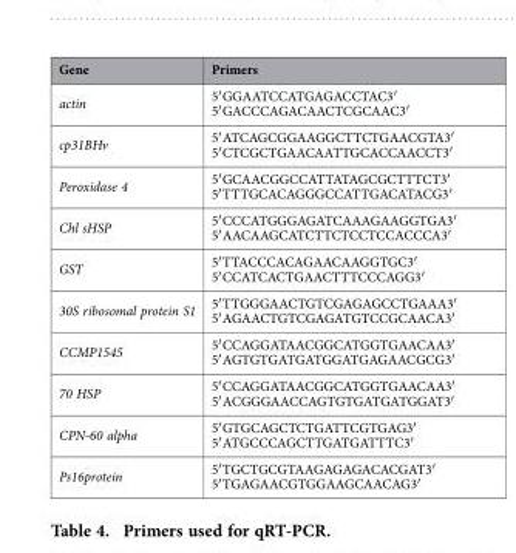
<table><thead><tr><td>Gene</td><td>Primers</td></tr></thead><tbody><tr><td>actin</td><td>5′ GGAATCCATGAGACCTAC3′ 5′ GACCCAGACAACTCGCAAC3′</td></tr><tr><td>cp31BHv</td><td>5′ ATCAGCGGAAGGCTTCTGAACGTA3′ 5′ CTCGCTGAACAATTGCACCAACCT3′</td></tr><tr><td>Peroxidase 4</td><td>5′ GCAACGGCCATTATAGCGCTTTCT3′ 5′ TTTGCACAGGGCCATTGACATACG3′</td></tr><tr><td>Chl sHSP</td><td>5′ CCCATGGGAGATCAAAGAAGGTGA3′ 5′ AACAAGCATCTTCTCCTCCACCCA3′</td></tr><tr><td>GST</td><td>5′ TTACCCACAGAACAAGGTGC3′ 5′ CCATCACTGAACTTTCCCAGG3′</td></tr><tr><td>30S ribosomal protein S1</td><td>5′ TTGGGAACTGTCGAGAGCCTGAAA3′ 5′ AGAACTGTCGAGATGTCCGCAACA3′</td></tr><tr><td>CCMP1545</td><td>5′ CCAGGATAACGGCATGGTGAACAA3′ 5′ AGTGTGATGATGGATGAGAACGCG3′</td></tr><tr><td>70 HSP</td><td>5′ CCAGGATAACGGCATGGTGAACAA3′ 5′ ACGGGAACCAGTGTGATGATGGAT3′</td></tr><tr><td>CPN-60 alpha</td><td>5′ GTGCAGCTCTGATTCGTGAG3′ 5′ ATGCCCAGCTTGATGATTTC3′</td></tr><tr><td>Ps16protein</td><td>5′ TGCTGCGTAAGAGAGACACGAT3′ 5′ TGAGAACGTGGAAGCAACAG3′</td></tr></tbody></table>